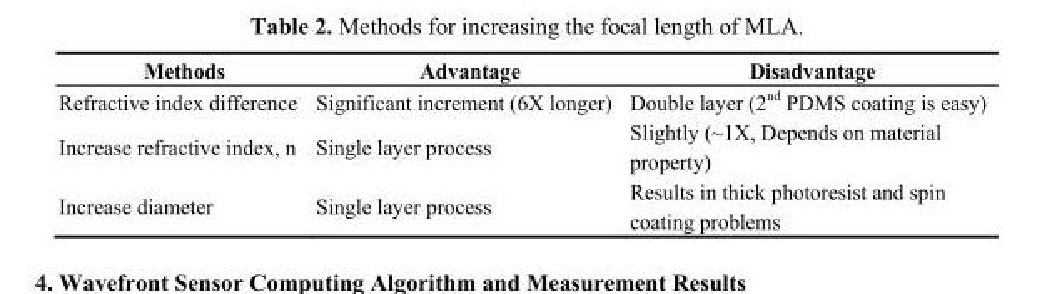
<table><thead><tr><td>Methods</td><td>Advantage</td><td>Disadvantage</td></tr></thead><tbody><tr><td>Refractive index difference</td><td>Significant increment (6X longer)</td><td>Double layer (2<sup>nd</sup> PDMS coating is easy)</td></tr><tr><td>Increase refractive index, n</td><td>Single layer process</td><td>Slightly (~1X, Depends on material property)</td></tr><tr><td>Increase diameter</td><td>Single layer process</td><td>Results in thick photoresist and spin coating problems</td></tr></tbody></table>